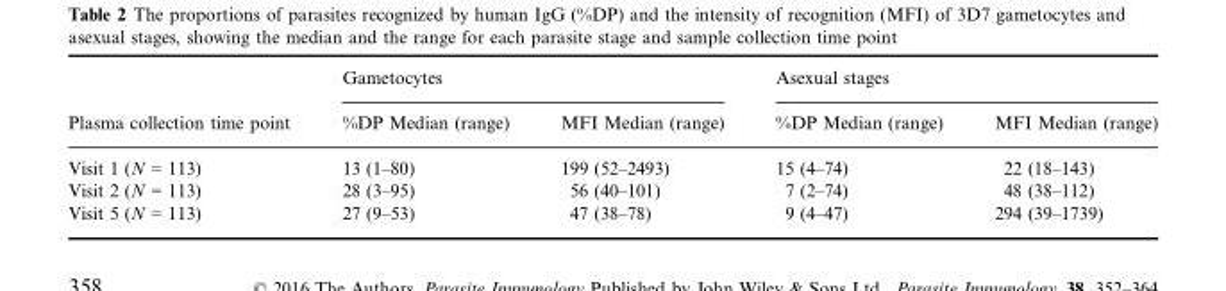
<table><thead><tr><td rowspan="2">Plasma collection time point</td><td colspan="2">Gametocytes</td><td colspan="2">Asexual stages</td></tr><tr><td>%DP Median (range)</td><td>MFI Median (range)</td><td>%DP Median (range)</td><td>MFI Median (range)</td></tr></thead><tbody><tr><td>Visit 1 (N = 113)</td><td>13 (1–80)</td><td>199 (52–2493)</td><td>15 (4–74)</td><td>22 (18–143)</td></tr><tr><td>Visit 2 (N = 113)</td><td>28 (3–95)</td><td>56 (40–101)</td><td>7 (2–74)</td><td>48 (38–112)</td></tr><tr><td>Visit 5 (N = 113)</td><td>27 (9–53)</td><td>47 (38–78)</td><td>9 (4–47)</td><td>294 (39–1739)</td></tr></tbody></table>